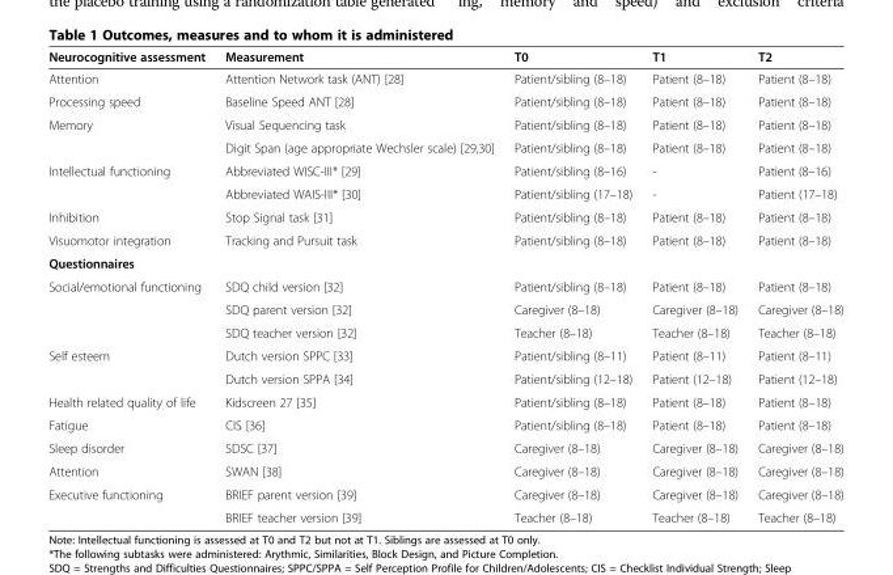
<table><thead><tr><td>Neurocognitive assessment</td><td>Measurement</td><td>T0</td><td>T1</td><td>T2</td></tr></thead><tbody><tr><td>Attention</td><td>Attention Network task (ANT) [28]</td><td>Patient/sibling (8–18)</td><td>Patient (8–18)</td><td>Patient (8–18)</td></tr><tr><td>Processing speed</td><td>Baseline Speed ANT [28]</td><td>Patient/sibling (8–18)</td><td>Patient (8–18)</td><td>Patient (8–18)</td></tr><tr><td rowspan="2">Memory</td><td>Visual Sequencing task</td><td>Patient/sibling (8–18)</td><td>Patient (8–18)</td><td>Patient (8–18)</td></tr><tr><td>Digit Span (age appropriate Wechsler scale) [29,30]</td><td>Patient/sibling (8–18)</td><td>Patient (8–18)</td><td>Patient (8–18)</td></tr><tr><td rowspan="2">Intellectual functioning</td><td>Abbreviated WISC-III* [29]</td><td>Patient/sibling (8–16)</td><td>-</td><td>Patient (8–16)</td></tr><tr><td>Abbreviated WAIS-III* [30]</td><td>Patient/sibling (17–18)</td><td>-</td><td>Patient (17–18)</td></tr><tr><td>Inhibition</td><td>Stop Signal task [31]</td><td>Patient/sibling (8–18)</td><td>Patient (8–18)</td><td>Patient (8–18)</td></tr><tr><td>Visuomotor integration</td><td>Tracking and Pursuit task</td><td>Patient/sibling (8–18)</td><td>Patient (8–18)</td><td>Patient (8–18)</td></tr><tr><td colspan="5">Questionnaires</td></tr><tr><td rowspan="3">Social/emotional functioning</td><td>SDQ child version [32]</td><td>Patient/sibling (8–18)</td><td>Patient (8–18)</td><td>Patient (8–18)</td></tr><tr><td>SDQ parent version [32]</td><td>Caregiver (8–18)</td><td>Caregiver (8–18)</td><td>Caregiver (8–18)</td></tr><tr><td>SDQ teacher version [32]</td><td>Teacher (8–18)</td><td>Teacher (8–18)</td><td>Teacher (8–18)</td></tr><tr><td rowspan="2">Self esteem</td><td>Dutch version SPPC [33]</td><td>Patient/sibling (8–11)</td><td>Patient (8–11)</td><td>Patient (8–11)</td></tr><tr><td>Dutch version SPPA [34]</td><td>Patient/sibling (12–18)</td><td>Patient (12–18)</td><td>Patient (12–18)</td></tr><tr><td>Health related quality of life</td><td>Kidscreen 27 [35]</td><td>Patient/sibling (8–18)</td><td>Patient (8–18)</td><td>Patient (8–18)</td></tr><tr><td>Fatigue</td><td>CIS [36]</td><td>Patient/sibling (8–18)</td><td>Patient (8–18)</td><td>Patient (8–18)</td></tr><tr><td>Sleep disorder</td><td>SDSC [37]</td><td>Caregiver (8–18)</td><td>Caregiver (8–18)</td><td>Caregiver (8–18)</td></tr><tr><td>Attention</td><td>SWAN [38]</td><td>Caregiver (8–18)</td><td>Caregiver (8–18)</td><td>Caregiver (8–18)</td></tr><tr><td rowspan="2">Executive functioning</td><td>BRIEF parent version [39]</td><td>Caregiver (8–18)</td><td>Caregiver (8–18)</td><td>Caregiver (8–18)</td></tr><tr><td>BRIEF teacher version [39]</td><td>Teacher (8–18)</td><td>Teacher (8–18)</td><td>Teacher (8–18)</td></tr></tbody></table>